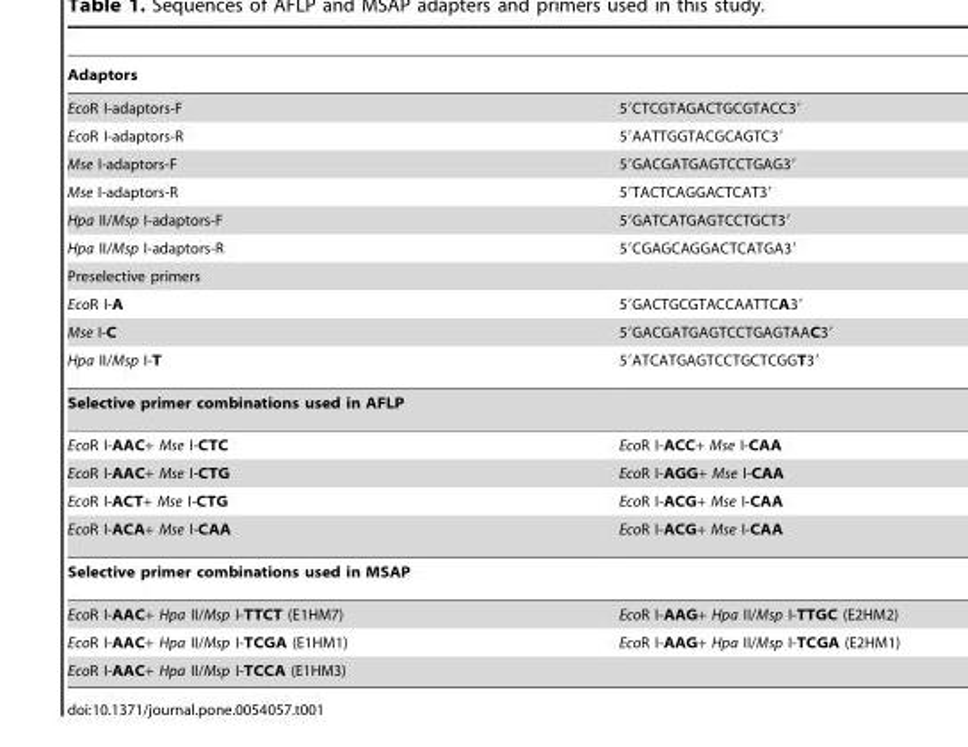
<table><thead><tr><td colspan="2">Adaptors</td></tr><tr><td>EcoR I-adaptors-F</td><td>5′CTCGTAGACTGCGTACC3′</td></tr></thead><tbody><tr><td>EcoR I-adaptors-R</td><td>5′AATTGGTACGCAGTC3′</td></tr><tr><td>Mse I-adaptors-F</td><td>5′GACGATGAGTCCTGAG3′</td></tr><tr><td>Mse I-adaptors-R</td><td>5′TACTCAGGACTCAT3′</td></tr><tr><td>Hpa II/Msp I-adaptors-F</td><td>5′GATCATGAGTCCTGCT3′</td></tr><tr><td>Hpa II/Msp I-adaptors-R</td><td>5′CGAGCAGGACTCATGA3′</td></tr><tr><td colspan="2">Preselective primers</td></tr><tr><td>EcoR I-A</td><td>5′GACTGCGTACCAATTCA3′</td></tr><tr><td>Mse I-C</td><td>5′GACGATGAGTCCTGAGTAAC3′</td></tr><tr><td>Hpa II/Msp I-T</td><td>5′ATCATGAGTCCTGCTCGGT3′</td></tr><tr><td colspan="2">Selective primer combinations used in AFLP</td></tr><tr><td>EcoR I-AAC+ Mse I-CTC</td><td>EcoR I-ACC+ Mse I-CAA</td></tr><tr><td>EcoR I-AAC+ Mse I-CTG</td><td>EcoR I-AGG+ Mse I-CAA</td></tr><tr><td>EcoR I-ACT+ Mse I-CTG</td><td>EcoR I-ACG+ Mse I-CAA</td></tr><tr><td>EcoR I-ACA+ Mse I-CAA</td><td>EcoR I-ACG+ Mse I-CAA</td></tr><tr><td colspan="2">Selective primer combinations used in MSAP</td></tr><tr><td>EcoR I-AAC+ Hpa II/Msp I-TTCT (E1HM7)</td><td>EcoR I-AAG+ Hpa II/Msp I-TTGC (E2HM2)</td></tr><tr><td>EcoR I-AAC+ Hpa II/Msp I-TCGA (E1HM1)</td><td>EcoR I-AAG+ Hpa II/Msp I-TCGA (E2HM1)</td></tr><tr><td>EcoR I-AAC+ Hpa II/Msp I-TCCA (E1HM3)</td><td></td></tr></tbody></table>